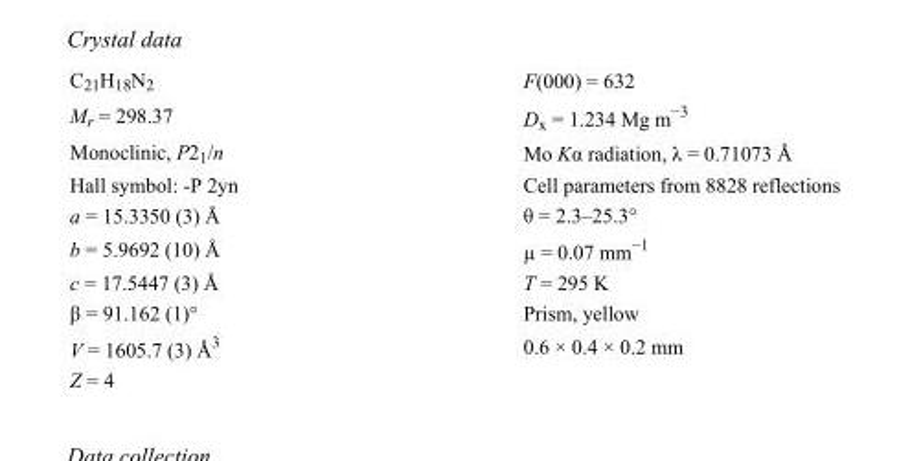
<table><tbody><tr><td>C<sub>21</sub>H<sub>18</sub>N<sub>2</sub></td><td>F(000) = 632</td></tr><tr><td>M<sub>r</sub> = 298.37</td><td>D<sub>x</sub> = 1.234 Mg m<sup>−3</sup></td></tr><tr><td>Monoclinic, P2<sub>1</sub>/n</td><td>Mo Kα radiation, λ = 0.71073 Å</td></tr><tr><td>Hall symbol: -P 2yn</td><td>Cell parameters from 8828 reflections</td></tr><tr><td>a = 15.3350 (3) Å</td><td>θ = 2.3–25.3°</td></tr><tr><td>b = 5.9692 (10) Å</td><td>µ = 0.07 mm<sup>−1</sup></td></tr><tr><td>c = 17.5447 (3) Å</td><td>T = 295 K</td></tr><tr><td>β = 91.162 (1)°</td><td>Prism, yellow</td></tr><tr><td>V = 1605.7 (3) Å<sup>3</sup></td><td>0.6 × 0.4 × 0.2 mm</td></tr><tr><td>Z = 4</td><td></td></tr></tbody></table>